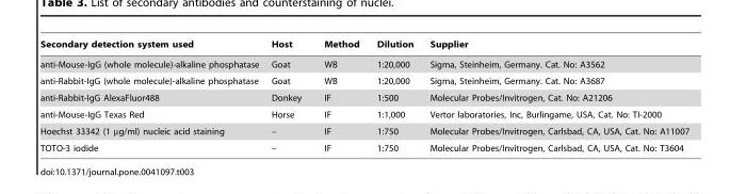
<table><thead><tr><td>Secondary detection system used</td><td>Host</td><td>Method</td><td>Dilution</td><td>Supplier</td></tr></thead><tbody><tr><td>anti-Mouse-IgG (whole molecule)-alkaline phosphatase</td><td>Goat</td><td>WB</td><td>1:20,000</td><td>Sigma, Steinheim, Germany. Cat. No: A3562</td></tr><tr><td>anti-Rabbit-IgG (whole molecule)-alkaline phosphatase</td><td>Goat</td><td>WB</td><td>1:20,000</td><td>Sigma, Steinheim, Germany. Cat. No: A3687</td></tr><tr><td>anti-Rabbit-IgG AlexaFluor488</td><td>Donkey</td><td>IF</td><td>1:500</td><td>Molecular Probes/Invitrogen, Cat. No: A21206</td></tr><tr><td>anti-Mouse-IgG Texas Red</td><td>Horse</td><td>IF</td><td>1:1,000</td><td>Vertor laboratories, Inc, Burlingame, USA, Cat. No: TI-2000</td></tr><tr><td>Hoechst 33342 (1 µg/ml) nucleic acid staining</td><td>–</td><td>IF</td><td>1:750</td><td>Molecular Probes/Invitrogen, Carlsbad, CA, USA, Cat. No: A11007</td></tr><tr><td>TOTO-3 iodide</td><td>–</td><td>IF</td><td>1:750</td><td>Molecular Probes/Invitrogen, Carlsbad, CA, USA, Cat. No: T3604</td></tr></tbody></table>